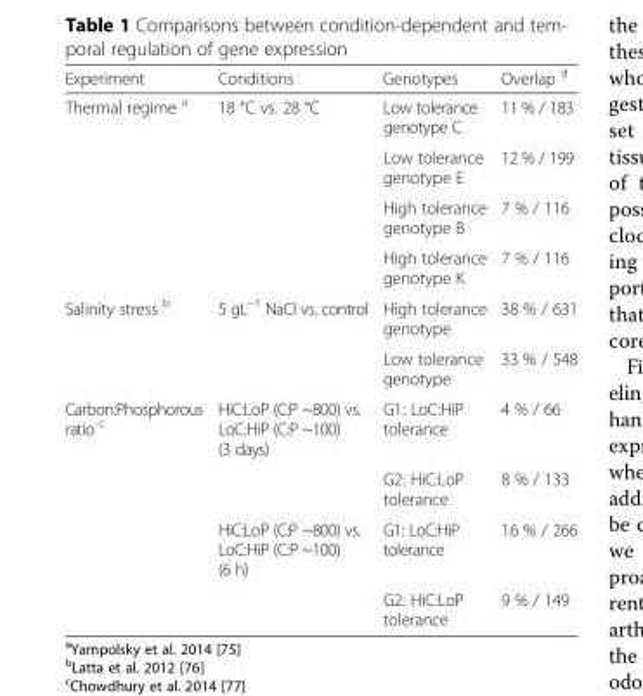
<table><thead><tr><td>Experiment</td><td>Conditions</td><td>Genotypes</td><td>Overlap <sup>d</sup></td></tr></thead><tbody><tr><td rowspan="4">Thermal regime <sup>a</sup></td><td>18 °C vs. 28 °C</td><td>Low tolerance genotype C</td><td>11 % / 183</td></tr><tr><td></td><td>Low tolerance genotype E</td><td>12 % / 199</td></tr><tr><td></td><td>High tolerance genotype B</td><td>7 % / 116</td></tr><tr><td></td><td>High tolerance genotype K</td><td>7 % / 116</td></tr><tr><td rowspan="2">Salinity stress <sup>b</sup></td><td>5 gL<sup>−1</sup> NaCl vs. control</td><td>High tolerance genotype</td><td>38 % / 631</td></tr><tr><td></td><td>Low tolerance genotype</td><td>33 % / 548</td></tr><tr><td rowspan="4">Carbon:Phosphorous ratio <sup>c</sup></td><td>HiC:LoP (C:P ~800) vs. LoC:HiP (C:P ~100) (3 days)</td><td>G1: LoC:HiP tolerance</td><td>4 % / 66</td></tr><tr><td></td><td>G2: HiC:LoP tolerance</td><td>8 % / 133</td></tr><tr><td>HiC:LoP (C:P ~800) vs. LoC:HiP (C:P ~100) (6 h)</td><td>G1: LoC:HiP tolerance</td><td>16 % / 266</td></tr><tr><td></td><td>G2: HiC:LoP tolerance</td><td>9 % / 149</td></tr></tbody></table>